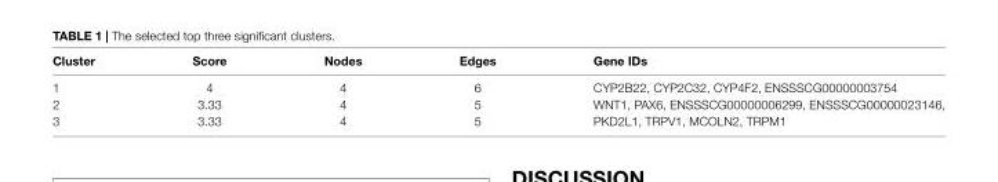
<table><thead><tr><td>Cluster</td><td>Score</td><td>Nodes</td><td>Edges</td><td>Gene IDs</td></tr></thead><tbody><tr><td>1</td><td>4</td><td>4</td><td>6</td><td>CYP2B22, CYP2C32, CYP4F2, ENSSSCG00000003754</td></tr><tr><td>2</td><td>3.33</td><td>4</td><td>5</td><td>WNT1, PAX6, ENSSSCG00000006299, ENSSSCG00000023146,</td></tr><tr><td>3</td><td>3.33</td><td>4</td><td>5</td><td>PKD2L1, TRPV1, MCOLN2, TRPM1</td></tr></tbody></table>